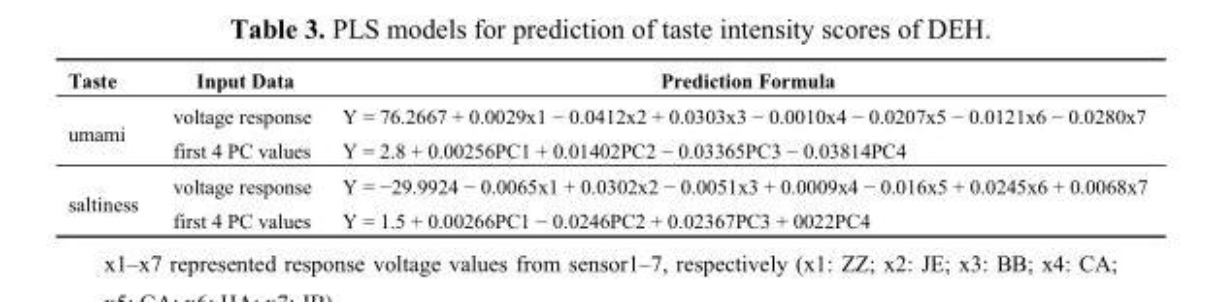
<table><thead><tr><td>Taste</td><td>Input Data</td><td>Prediction Formula</td></tr></thead><tbody><tr><td rowspan="2">umami</td><td>voltage response</td><td>Y = 76.2667 + 0.0029x1 − 0.0412x2 + 0.0303x3 − 0.0010x4 − 0.0207x5 − 0.0121x6 − 0.0280x7</td></tr><tr><td>first 4 PC values</td><td>Y = 2.8 + 0.00256PC1 + 0.01402PC2 − 0.03365PC3 − 0.03814PC4</td></tr><tr><td rowspan="2">saltiness</td><td>voltage response</td><td>Y = −29.9924 − 0.0065x1 + 0.0302x2 − 0.0051x3 + 0.0009x4 − 0.016x5 + 0.0245x6 + 0.0068x7</td></tr><tr><td>first 4 PC values</td><td>Y = 1.5 + 0.00266PC1 − 0.0246PC2 + 0.02367PC3 + 0022PC4</td></tr></tbody></table>